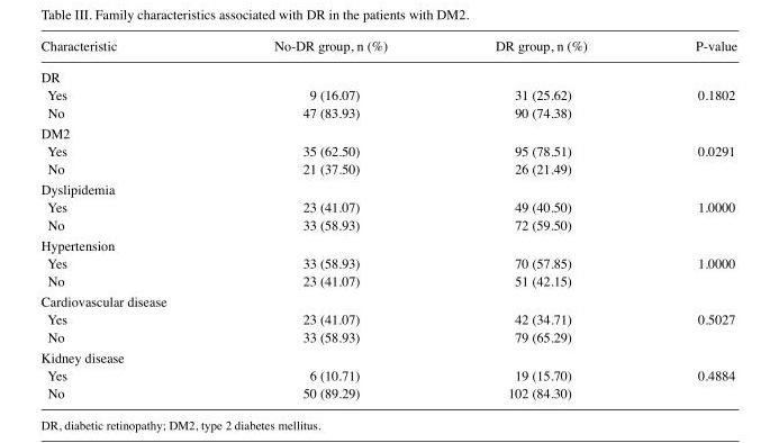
<table><thead><tr><td>Characteristic</td><td>No-DR group, n (%)</td><td>DR group, n (%)</td><td>P-value</td></tr></thead><tbody><tr><td colspan="4">DR</td></tr><tr><td>Yes</td><td>9 (16.07)</td><td>31 (25.62)</td><td>0.1802</td></tr><tr><td>No</td><td>47 (83.93)</td><td>90 (74.38)</td><td></td></tr><tr><td colspan="4">DM2</td></tr><tr><td>Yes</td><td>35 (62.50)</td><td>95 (78.51)</td><td>0.0291</td></tr><tr><td>No</td><td>21 (37.50)</td><td>26 (21.49)</td><td></td></tr><tr><td colspan="4">Dyslipidemia</td></tr><tr><td>Yes</td><td>23 (41.07)</td><td>49 (40.50)</td><td>1.0000</td></tr><tr><td>No</td><td>33 (58.93)</td><td>72 (59.50)</td><td></td></tr><tr><td colspan="4">Hypertension</td></tr><tr><td>Yes</td><td>33 (58.93)</td><td>70 (57.85)</td><td>1.0000</td></tr><tr><td>No</td><td>23 (41.07)</td><td>51 (42.15)</td><td></td></tr><tr><td colspan="4">Cardiovascular disease</td></tr><tr><td>Yes</td><td>23 (41.07)</td><td>42 (34.71)</td><td>0.5027</td></tr><tr><td>No</td><td>33 (58.93)</td><td>79 (65.29)</td><td></td></tr><tr><td colspan="4">Kidney disease</td></tr><tr><td>Yes</td><td>6 (10.71)</td><td>19 (15.70)</td><td>0.4884</td></tr><tr><td>No</td><td>50 (89.29)</td><td>102 (84.30)</td><td></td></tr></tbody></table>